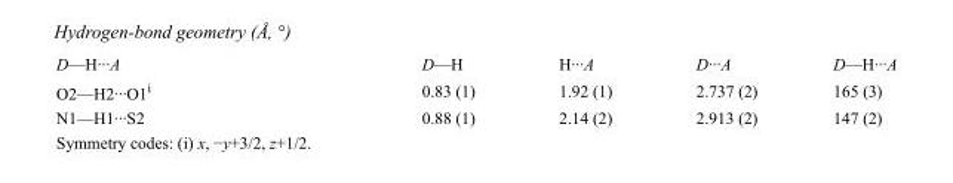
<table><tbody><tr><td>D—H···A</td><td>D—H</td><td>H···A</td><td>D···A</td><td>D—H···A</td></tr><tr><td>O2—H2···O1<sup>i</sup></td><td>0.83 (1)</td><td>1.92 (1)</td><td>2.737 (2)</td><td>165 (3)</td></tr><tr><td>N1—H1···S2</td><td>0.88 (1)</td><td>2.14 (2)</td><td>2.913 (2)</td><td>147 (2)</td></tr></tbody></table>